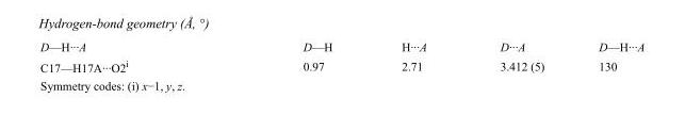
<table><tbody><tr><td>D—H···A</td><td>D—H</td><td>H···A</td><td>D···A</td><td>D—H···A</td></tr><tr><td>C17—H17A···O2<sup>i</sup></td><td>0.97</td><td>2.71</td><td>3.412 (5)</td><td>130</td></tr></tbody></table>